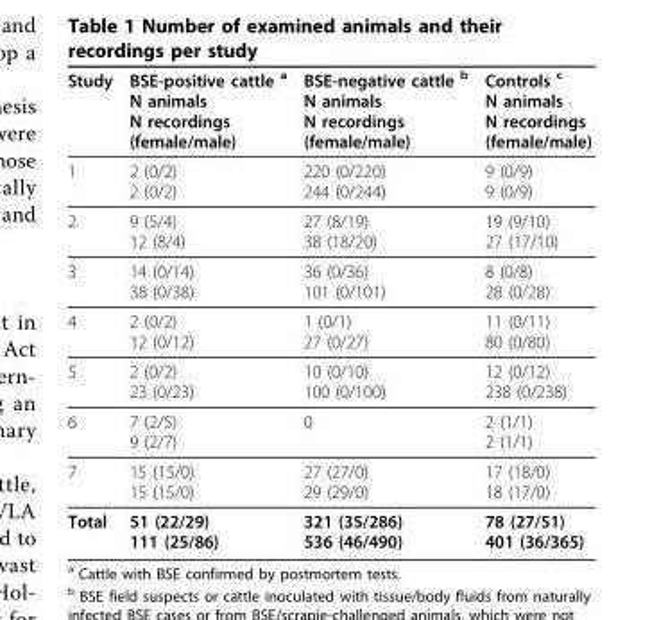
<table><thead><tr><td>Study</td><td>BSE-positive cattle <sup>a</sup> N animals N recordings (female/male)</td><td>BSE-negative cattle <sup>b</sup> N animals N recordings (female/male)</td><td>Controls <sup>c</sup> N animals N recordings (female/male)</td></tr></thead><tbody><tr><td>1</td><td>2 (0/2) 2 (0/2)</td><td>220 (0/220) 244 (0/244)</td><td>9 (0/9) 9 (0/9)</td></tr><tr><td>2</td><td>9 (5/4) 12 (8/4)</td><td>27 (8/19) 38 (18/20)</td><td>19 (9/10) 27 (17/10)</td></tr><tr><td>3</td><td>14 (0/14) 38 (0/38)</td><td>36 (0/36) 101 (0/101)</td><td>8 (0/8) 28 (0/28)</td></tr><tr><td>4</td><td>2 (0/2) 12 (0/12)</td><td>1 (0/1) 27 (0/27)</td><td>11 (0/11) 80 (0/80)</td></tr><tr><td>5</td><td>2 (0/2) 23 (0/23)</td><td>10 (0/10) 100 (0/100)</td><td>12 (0/12) 238 (0/238)</td></tr><tr><td>6</td><td>7 (2/5) 9 (2/7)</td><td>0</td><td>2 (1/1) 2 (1/1)</td></tr><tr><td>7</td><td>15 (15/0) 15 (15/0)</td><td>27 (27/0) 29 (29/0)</td><td>17 (18/0) 18 (17/0)</td></tr><tr><td>Total</td><td>51 (22/29) 111 (25/86)</td><td>321 (35/286) 536 (46/490)</td><td>78 (27/51) 401 (36/365)</td></tr></tbody></table>